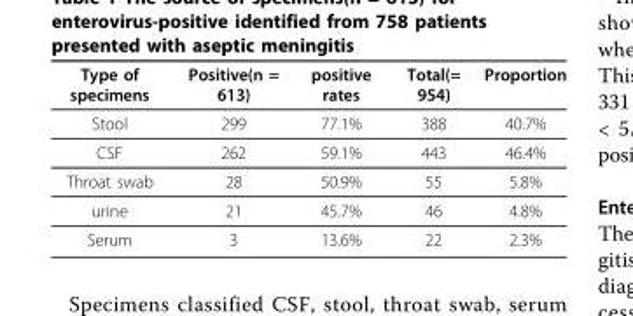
<table><thead><tr><td>Type of specimens</td><td>Positive(n = 613)</td><td>positive rates</td><td>Total(= 954)</td><td>Proportion</td></tr></thead><tbody><tr><td>Stool</td><td>299</td><td>77.1%</td><td>388</td><td>40.7%</td></tr><tr><td>CSF</td><td>262</td><td>59.1%</td><td>443</td><td>46.4%</td></tr><tr><td>Throat swab</td><td>28</td><td>50.9%</td><td>55</td><td>5.8%</td></tr><tr><td>urine</td><td>21</td><td>45.7%</td><td>46</td><td>4.8%</td></tr><tr><td>Serum</td><td>3</td><td>13.6%</td><td>22</td><td>2.3%</td></tr></tbody></table>